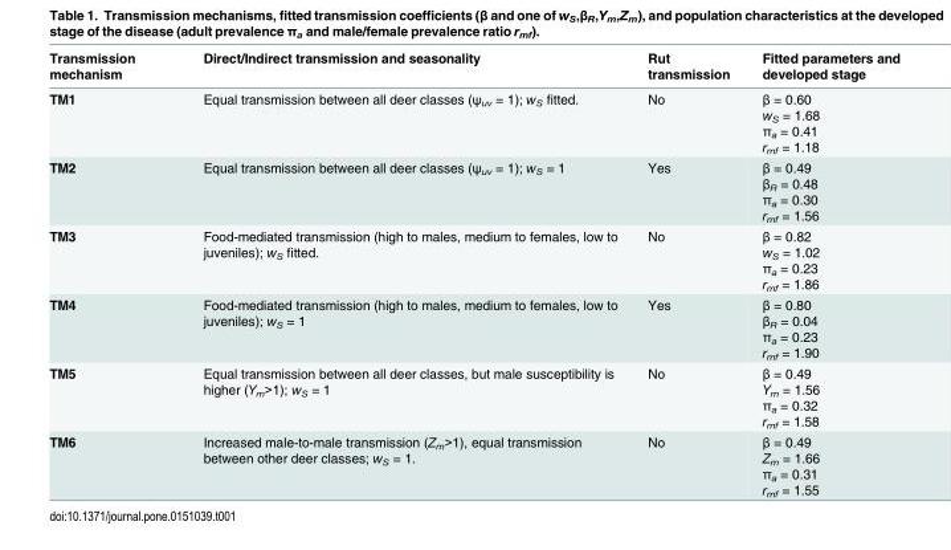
<table><thead><tr><td>Transmission mechanism</td><td>Direct/Indirect transmission and seasonality</td><td>Rut transmission</td><td>Fitted parameters and developed stage</td></tr></thead><tbody><tr><td>TM1</td><td>Equal transmission between all deer classes (ψ<sub>uv</sub> = 1); w<sub>S</sub> fitted.</td><td>No</td><td>β = 0.60 w<sub>S</sub> = 1.68 π<sub>a</sub> = 0.41 r<sub>mf</sub> = 1.18</td></tr><tr><td>TM2</td><td>Equal transmission between all deer classes (ψ<sub>uv</sub> = 1); w<sub>S</sub> = 1</td><td>Yes</td><td>β = 0.49 β<sub>R</sub> = 0.48 π<sub>a</sub> = 0.30 r<sub>mf</sub> = 1.56</td></tr><tr><td>TM3</td><td>Food-mediated transmission (high to males, medium to females, low to juveniles); w<sub>S</sub> fitted.</td><td>No</td><td>β = 0.82 w<sub>S</sub> = 1.02 π<sub>a</sub> = 0.23 r<sub>mf</sub> = 1.86</td></tr><tr><td>TM4</td><td>Food-mediated transmission (high to males, medium to females, low to juveniles); w<sub>S</sub> = 1</td><td>Yes</td><td>β = 0.80 β<sub>R</sub> = 0.04 π<sub>a</sub> = 0.23 r<sub>mf</sub> = 1.90</td></tr><tr><td>TM5</td><td>Equal transmission between all deer classes, but male susceptibility is higher (Y<sub>m</sub>&gt;1); w<sub>S</sub> = 1</td><td>No</td><td>β = 0.49 Y<sub>m</sub> = 1.56 π<sub>a</sub> = 0.32 r<sub>mf</sub> = 1.58</td></tr><tr><td>TM6</td><td>Increased male-to-male transmission (Z<sub>m</sub>&gt;1), equal transmission between other deer classes; w<sub>S</sub> = 1.</td><td>No</td><td>β = 0.49 Z<sub>m</sub> = 1.66 π<sub>a</sub> = 0.31 r<sub>mf</sub> = 1.55</td></tr></tbody></table>